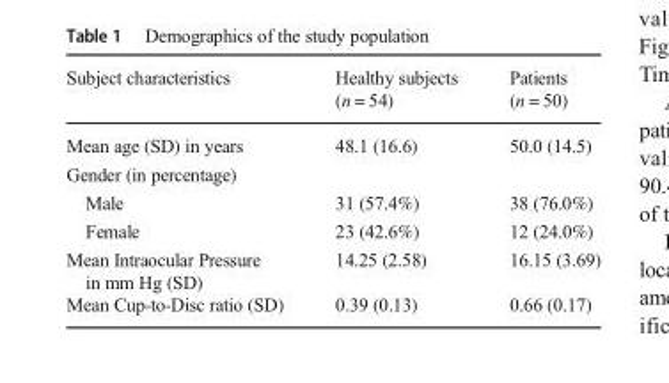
<table><thead><tr><td>Subject characteristics</td><td>Healthy subjects (n = 54)</td><td>Patients (n = 50)</td></tr></thead><tbody><tr><td>Mean age (SD) in years</td><td>48.1 (16.6)</td><td>50.0 (14.5)</td></tr><tr><td colspan="3">Gender (in percentage)</td></tr><tr><td>Male</td><td>31 (57.4%)</td><td>38 (76.0%)</td></tr><tr><td>Female</td><td>23 (42.6%)</td><td>12 (24.0%)</td></tr><tr><td>Mean Intraocular Pressure in mm Hg (SD)</td><td>14.25 (2.58)</td><td>16.15 (3.69)</td></tr><tr><td>Mean Cup-to-Disc ratio (SD)</td><td>0.39 (0.13)</td><td>0.66 (0.17)</td></tr></tbody></table>